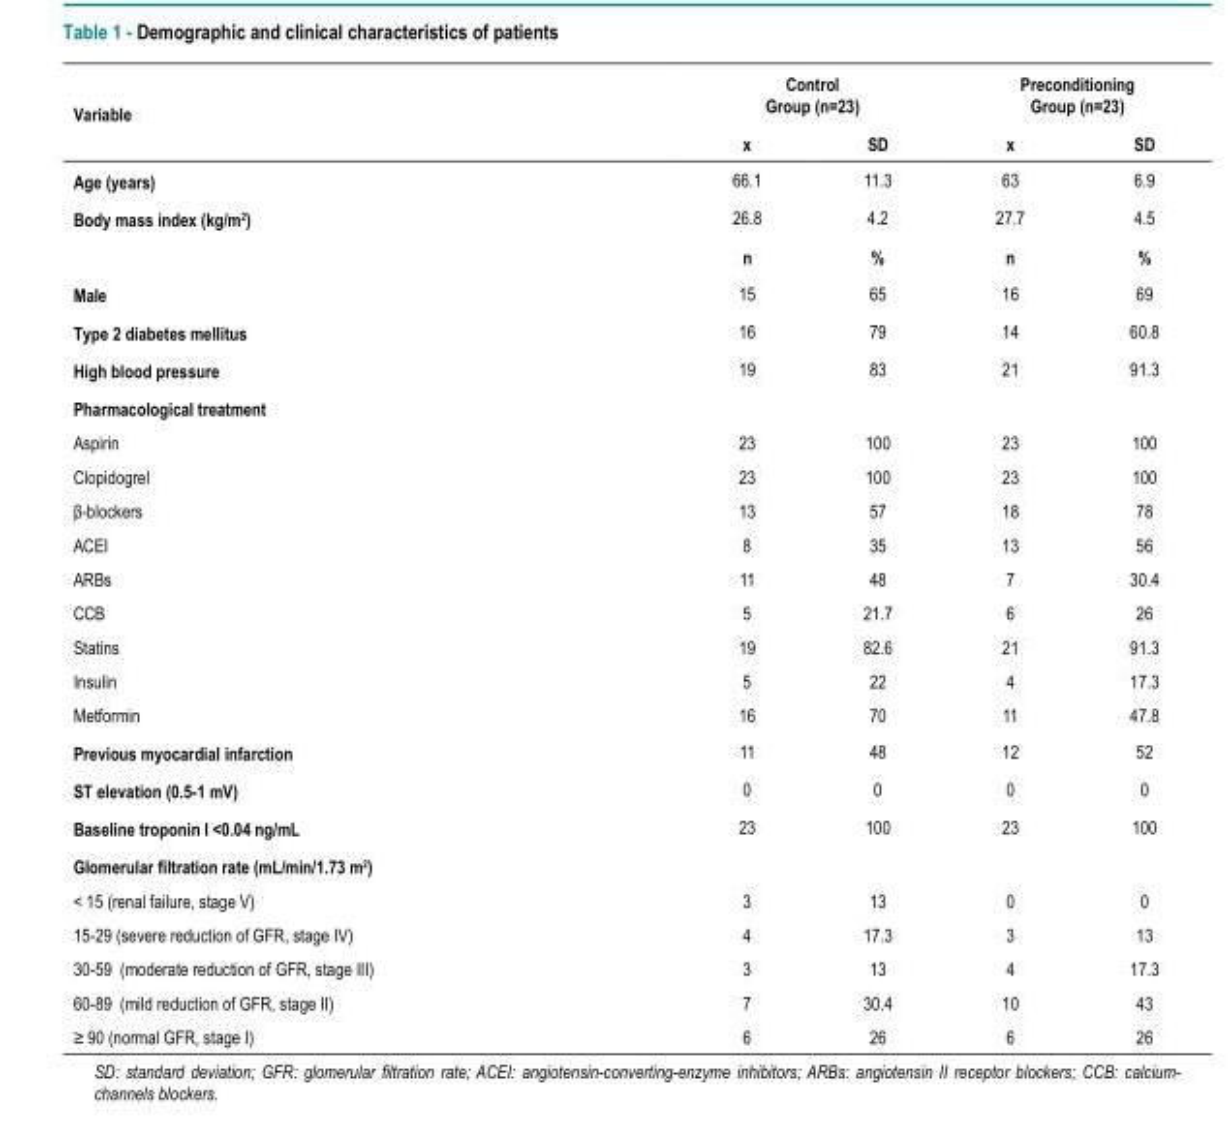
<table><thead><tr><td rowspan="2">Variable</td><td colspan="2">Control Group (n=23)</td><td colspan="2">Preconditioning Group (n=23)</td></tr><tr><td>x</td><td>SD</td><td>x</td><td>SD</td></tr></thead><tbody><tr><td>Age (years)</td><td>66.1</td><td>11.3</td><td>63</td><td>6.9</td></tr><tr><td rowspan="2">Body mass index (kg/m<sup>2</sup>)</td><td>26.8</td><td>4.2</td><td>27.7</td><td>4.5</td></tr><tr><td>n</td><td>%</td><td>n</td><td>%</td></tr><tr><td>Male</td><td>15</td><td>65</td><td>16</td><td>69</td></tr><tr><td>Type 2 diabetes mellitus</td><td>16</td><td>79</td><td>14</td><td>60.8</td></tr><tr><td>High blood pressure</td><td>19</td><td>83</td><td>21</td><td>91.3</td></tr><tr><td colspan="5">Pharmacological treatment</td></tr><tr><td>Aspirin</td><td>23</td><td>100</td><td>23</td><td>100</td></tr><tr><td>Clopidogrel</td><td>23</td><td>100</td><td>23</td><td>100</td></tr><tr><td>β-blockers</td><td>13</td><td>57</td><td>18</td><td>78</td></tr><tr><td>ACEI</td><td>8</td><td>35</td><td>13</td><td>56</td></tr><tr><td>ARBs</td><td>11</td><td>48</td><td>7</td><td>30.4</td></tr><tr><td>CCB</td><td>5</td><td>21.7</td><td>6</td><td>26</td></tr><tr><td>Statins</td><td>19</td><td>82.6</td><td>21</td><td>91.3</td></tr><tr><td>Insulin</td><td>5</td><td>22</td><td>4</td><td>17.3</td></tr><tr><td>Metformin</td><td>16</td><td>70</td><td>11</td><td>47.8</td></tr><tr><td>Previous myocardial infarction</td><td>11</td><td>48</td><td>12</td><td>52</td></tr><tr><td>ST elevation (0.5-1 mV)</td><td>0</td><td>0</td><td>0</td><td>0</td></tr><tr><td>Baseline troponin I &lt;0.04 ng/mL</td><td>23</td><td>100</td><td>23</td><td>100</td></tr><tr><td colspan="5">Glomerular filtration rate (mL/min/1.73 m<sup>2</sup>)</td></tr><tr><td>&lt; 15 (renal failure, stage V)</td><td>3</td><td>13</td><td>0</td><td>0</td></tr><tr><td>15-29 (severe reduction of GFR, stage IV)</td><td>4</td><td>17.3</td><td>3</td><td>13</td></tr><tr><td>30-59 (moderate reduction of GFR, stage III)</td><td>3</td><td>13</td><td>4</td><td>17.3</td></tr><tr><td>60-89 (mild reduction of GFR, stage II)</td><td>7</td><td>30.4</td><td>10</td><td>43</td></tr><tr><td>≥ 90 (normal GFR, stage I)</td><td>6</td><td>26</td><td>6</td><td>26</td></tr></tbody></table>